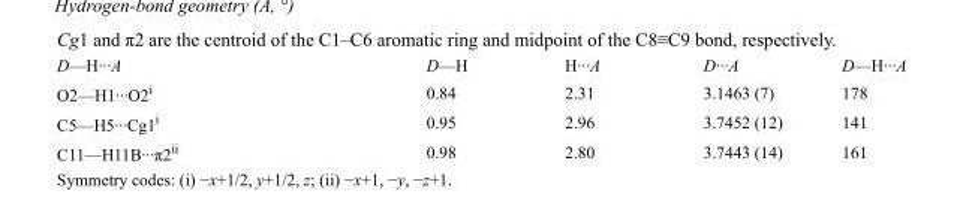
<table><tbody><tr><td>D—H···A</td><td>D—H</td><td>H···A</td><td>D···A</td><td>D—H···A</td></tr><tr><td>O2—H1···O2<sup>i</sup></td><td>0.84</td><td>2.31</td><td>3.1463 (7)</td><td>178</td></tr><tr><td>C5—H5···Cg1<sup>i</sup></td><td>0.95</td><td>2.96</td><td>3.7452 (12)</td><td>141</td></tr><tr><td>C11—H11B···π2<sup>ii</sup></td><td>0.98</td><td>2.80</td><td>3.7443 (14)</td><td>161</td></tr></tbody></table>